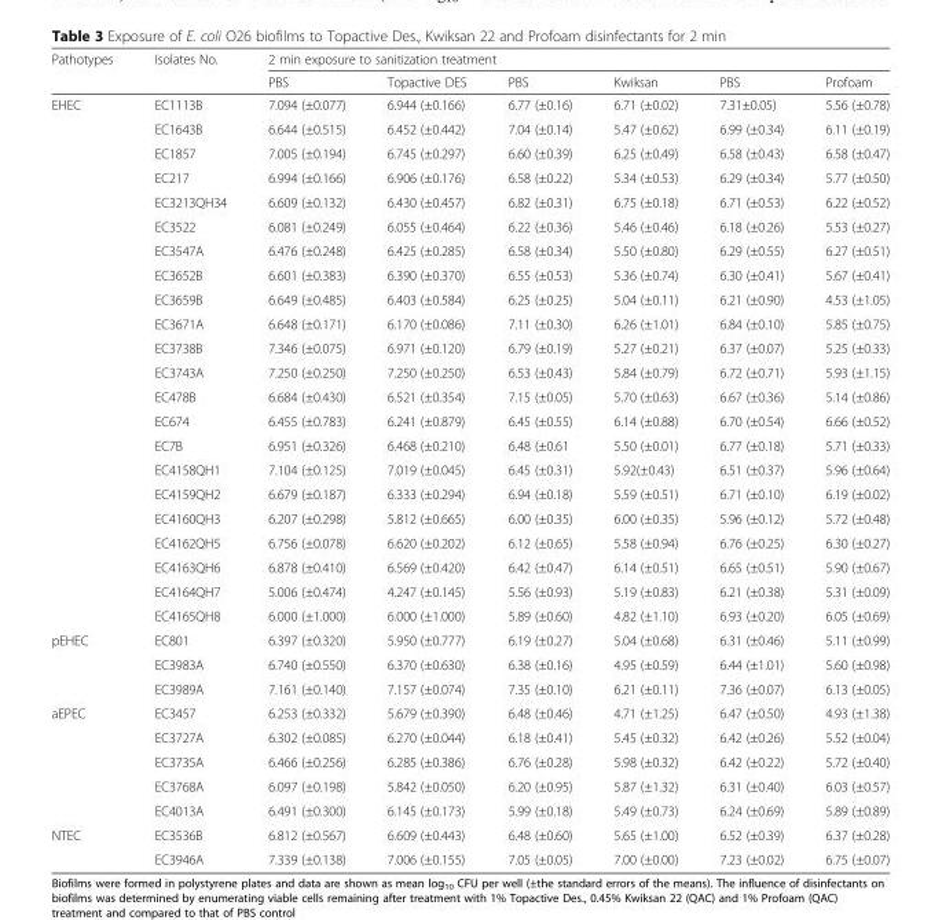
<table><thead><tr><td rowspan="2">Pathotypes</td><td rowspan="2">Isolates No.</td><td colspan="6">2 min exposure to sanitization treatment</td></tr><tr><td>PBS</td><td>Topactive DES</td><td>PBS</td><td>Kwiksan</td><td>PBS</td><td>Profoam</td></tr></thead><tbody><tr><td rowspan="22">EHEC</td><td>EC1113B</td><td>7.094 (±0.077)</td><td>6.944 (±0.166)</td><td>6.77 (±0.16)</td><td>6.71 (±0.02)</td><td>7.31±0.05)</td><td>5.56 (±0.78)</td></tr><tr><td>EC1643B</td><td>6.644 (±0.515)</td><td>6.452 (±0.442)</td><td>7.04 (±0.14)</td><td>5.47 (±0.62)</td><td>6.99 (±0.34)</td><td>6.11 (±0.19)</td></tr><tr><td>EC1857</td><td>7.005 (±0.194)</td><td>6.745 (±0.297)</td><td>6.60 (±0.39)</td><td>6.25 (±0.49)</td><td>6.58 (±0.43)</td><td>6.58 (±0.47)</td></tr><tr><td>EC217</td><td>6.994 (±0.166)</td><td>6.906 (±0.176)</td><td>6.58 (±0.22)</td><td>5.34 (±0.53)</td><td>6.29 (±0.34)</td><td>5.77 (±0.50)</td></tr><tr><td>EC3213QH34</td><td>6.609 (±0.132)</td><td>6.430 (±0.457)</td><td>6.82 (±0.31)</td><td>6.75 (±0.18)</td><td>6.71 (±0.53)</td><td>6.22 (±0.52)</td></tr><tr><td>EC3522</td><td>6.081 (±0.249)</td><td>6.055 (±0.464)</td><td>6.22 (±0.36)</td><td>5.46 (±0.46)</td><td>6.18 (±0.26)</td><td>5.53 (±0.27)</td></tr><tr><td>EC3547A</td><td>6.476 (±0.248)</td><td>6.425 (±0.285)</td><td>6.58 (±0.34)</td><td>5.50 (±0.80)</td><td>6.29 (±0.55)</td><td>6.27 (±0.51)</td></tr><tr><td>EC3652B</td><td>6.601 (±0.383)</td><td>6.390 (±0.370)</td><td>6.55 (±0.53)</td><td>5.36 (±0.74)</td><td>6.30 (±0.41)</td><td>5.67 (±0.41)</td></tr><tr><td>EC3659B</td><td>6.649 (±0.485)</td><td>6.403 (±0.584)</td><td>6.25 (±0.25)</td><td>5.04 (±0.11)</td><td>6.21 (±0.90)</td><td>4.53 (±1.05)</td></tr><tr><td>EC3671A</td><td>6.648 (±0.171)</td><td>6.170 (±0.086)</td><td>7.11 (±0.30)</td><td>6.26 (±1.01)</td><td>6.84 (±0.10)</td><td>5.85 (±0.75)</td></tr><tr><td>EC3738B</td><td>7.346 (±0.075)</td><td>6.971 (±0.120)</td><td>6.79 (±0.19)</td><td>5.27 (±0.21)</td><td>6.37 (±0.07)</td><td>5.25 (±0.33)</td></tr><tr><td>EC3743A</td><td>7.250 (±0.250)</td><td>7.250 (±0.250)</td><td>6.53 (±0.43)</td><td>5.84 (±0.79)</td><td>6.72 (±0.71)</td><td>5.93 (±1.15)</td></tr><tr><td>EC478B</td><td>6.684 (±0.430)</td><td>6.521 (±0.354)</td><td>7.15 (±0.05)</td><td>5.70 (±0.63)</td><td>6.67 (±0.36)</td><td>5.14 (±0.86)</td></tr><tr><td>EC674</td><td>6.455 (±0.783)</td><td>6.241 (±0.879)</td><td>6.45 (±0.55)</td><td>6.14 (±0.88)</td><td>6.70 (±0.54)</td><td>6.66 (±0.52)</td></tr><tr><td>EC7B</td><td>6.951 (±0.326)</td><td>6.468 (±0.210)</td><td>6.48 (±0.61</td><td>5.50 (±0.01)</td><td>6.77 (±0.18)</td><td>5.71 (±0.33)</td></tr><tr><td>EC4158QH1</td><td>7.104 (±0.125)</td><td>7.019 (±0.045)</td><td>6.45 (±0.31)</td><td>5.92(±0.43)</td><td>6.51 (±0.37)</td><td>5.96 (±0.64)</td></tr><tr><td>EC4159QH2</td><td>6.679 (±0.187)</td><td>6.333 (±0.294)</td><td>6.94 (±0.18)</td><td>5.59 (±0.51)</td><td>6.71 (±0.10)</td><td>6.19 (±0.02)</td></tr><tr><td>EC4160QH3</td><td>6.207 (±0.298)</td><td>5.812 (±0.665)</td><td>6.00 (±0.35)</td><td>6.00 (±0.35)</td><td>5.96 (±0.12)</td><td>5.72 (±0.48)</td></tr><tr><td>EC4162QH5</td><td>6.756 (±0.078)</td><td>6.620 (±0.202)</td><td>6.12 (±0.65)</td><td>5.58 (±0.94)</td><td>6.76 (±0.25)</td><td>6.30 (±0.27)</td></tr><tr><td>EC4163QH6</td><td>6.878 (±0.410)</td><td>6.569 (±0.420)</td><td>6.42 (±0.47)</td><td>6.14 (±0.51)</td><td>6.65 (±0.51)</td><td>5.90 (±0.67)</td></tr><tr><td>EC4164QH7</td><td>5.006 (±0.474)</td><td>4.247 (±0.145)</td><td>5.56 (±0.93)</td><td>5.19 (±0.83)</td><td>6.21 (±0.38)</td><td>5.31 (±0.09)</td></tr><tr><td>EC4165QH8</td><td>6.000 (±1.000)</td><td>6.000 (±1.000)</td><td>5.89 (±0.60)</td><td>4.82 (±1.10)</td><td>6.93 (±0.20)</td><td>6.05 (±0.69)</td></tr><tr><td rowspan="3">pEHEC</td><td>EC801</td><td>6.397 (±0.320)</td><td>5.950 (±0.777)</td><td>6.19 (±0.27)</td><td>5.04 (±0.68)</td><td>6.31 (±0.46)</td><td>5.11 (±0.99)</td></tr><tr><td>EC3983A</td><td>6.740 (±0.550)</td><td>6.370 (±0.630)</td><td>6.38 (±0.16)</td><td>4.95 (±0.59)</td><td>6.44 (±1.01)</td><td>5.60 (±0.98)</td></tr><tr><td>EC3989A</td><td>7.161 (±0.140)</td><td>7.157 (±0.074)</td><td>7.35 (±0.10)</td><td>6.21 (±0.11)</td><td>7.36 (±0.07)</td><td>6.13 (±0.05)</td></tr><tr><td rowspan="5">aEPEC</td><td>EC3457</td><td>6.253 (±0.332)</td><td>5.679 (±0.390)</td><td>6.48 (±0.46)</td><td>4.71 (±1.25)</td><td>6.47 (±0.50)</td><td>4.93 (±1.38)</td></tr><tr><td>EC3727A</td><td>6.302 (±0.085)</td><td>6.270 (±0.044)</td><td>6.18 (±0.41)</td><td>5.45 (±0.32)</td><td>6.42 (±0.26)</td><td>5.52 (±0.04)</td></tr><tr><td>EC3735A</td><td>6.466 (±0.256)</td><td>6.285 (±0.386)</td><td>6.76 (±0.28)</td><td>5.98 (±0.32)</td><td>6.42 (±0.22)</td><td>5.72 (±0.40)</td></tr><tr><td>EC3768A</td><td>6.097 (±0.198)</td><td>5.842 (±0.050)</td><td>6.20 (±0.95)</td><td>5.87 (±1.32)</td><td>6.31 (±0.40)</td><td>6.03 (±0.57)</td></tr><tr><td>EC4013A</td><td>6.491 (±0.300)</td><td>6.145 (±0.173)</td><td>5.99 (±0.18)</td><td>5.49 (±0.73)</td><td>6.24 (±0.69)</td><td>5.89 (±0.89)</td></tr><tr><td rowspan="2">NTEC</td><td>EC3536B</td><td>6.812 (±0.567)</td><td>6.609 (±0.443)</td><td>6.48 (±0.60)</td><td>5.65 (±1.00)</td><td>6.52 (±0.39)</td><td>6.37 (±0.28)</td></tr><tr><td>EC3946A</td><td>7.339 (±0.138)</td><td>7.006 (±0.155)</td><td>7.05 (±0.05)</td><td>7.00 (±0.00)</td><td>7.23 (±0.02)</td><td>6.75 (±0.07)</td></tr></tbody></table>